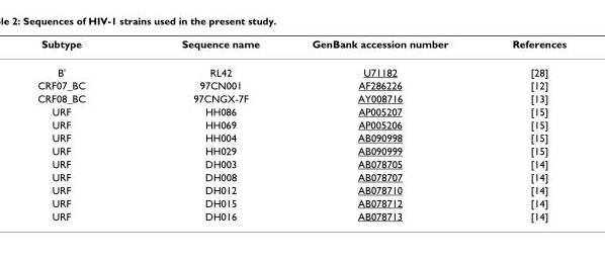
<table><thead><tr><td>Subtype</td><td>Sequence name</td><td>GenBank accession number</td><td>References</td></tr></thead><tbody><tr><td>B&#x27;</td><td>RL42</td><td>U71182</td><td>[28]</td></tr><tr><td>CRF07_BC</td><td>97CN001</td><td>AF286226</td><td>[12]</td></tr><tr><td>CRF08_BC</td><td>97CNGX-7F</td><td>AY008716</td><td>[13]</td></tr><tr><td>URF</td><td>HH086</td><td>AP005207</td><td>[15]</td></tr><tr><td>URF</td><td>HH069</td><td>AP005206</td><td>[15]</td></tr><tr><td>URF</td><td>HH004</td><td>AB090998</td><td>[15]</td></tr><tr><td>URF</td><td>HH029</td><td>AB090999</td><td>[15]</td></tr><tr><td>URF</td><td>DH003</td><td>AB078705</td><td>[14]</td></tr><tr><td>URF</td><td>DH008</td><td>AB078707</td><td>[14]</td></tr><tr><td>URF</td><td>DH012</td><td>AB078710</td><td>[14]</td></tr><tr><td>URF</td><td>DH015</td><td>AB078712</td><td>[14]</td></tr><tr><td>URF</td><td>DH016</td><td>AB078713</td><td>[14]</td></tr></tbody></table>